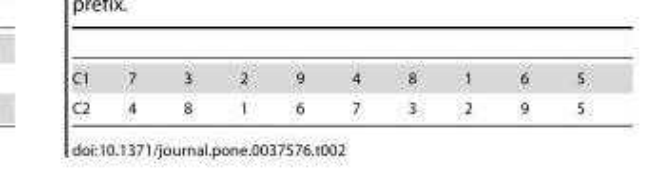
<table><tbody><tr><td>C1</td><td>7</td><td>3</td><td>2</td><td>9</td><td>4</td><td>8</td><td>1</td><td>6</td><td>5</td></tr><tr><td>C2</td><td>4</td><td>8</td><td>1</td><td>6</td><td>7</td><td>3</td><td>2</td><td>9</td><td>5</td></tr></tbody></table>